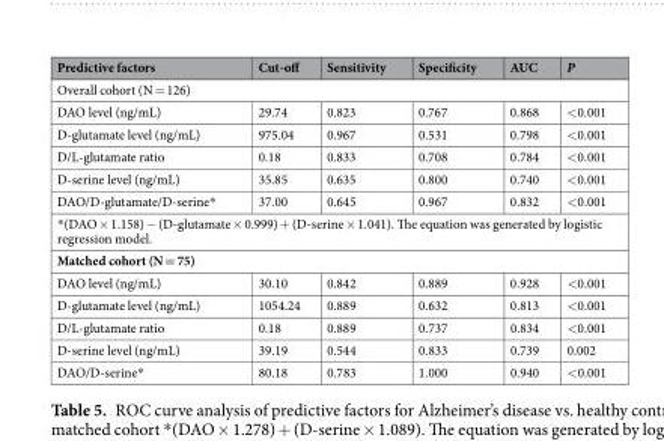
<table><thead><tr><td>Predictive factors</td><td>Cut-off</td><td>Sensitivity</td><td>Specificity</td><td>AUC</td><td>P</td></tr></thead><tbody><tr><td colspan="6">Overall cohort (N = 126)</td></tr><tr><td>DAO level (ng/mL)</td><td>29.74</td><td>0.823</td><td>0.767</td><td>0.868</td><td>&lt;0.001</td></tr><tr><td>D-glutamate level (ng/mL)</td><td>975.04</td><td>0.967</td><td>0.531</td><td>0.798</td><td>&lt;0.001</td></tr><tr><td>D/L-glutamate ratio</td><td>0.18</td><td>0.833</td><td>0.708</td><td>0.784</td><td>&lt;0.001</td></tr><tr><td>D-serine level (ng/mL)</td><td>35.85</td><td>0.635</td><td>0.800</td><td>0.740</td><td>&lt;0.001</td></tr><tr><td>DAO/D-glutamate/D-serine*</td><td>37.00</td><td>0.645</td><td>0.967</td><td>0.832</td><td>&lt;0.001</td></tr><tr><td colspan="6">*(DAO × 1.158) − (D-glutamate × 0.999) + (D-serine × 1.041). The equation was generated by logistic regression model.</td></tr><tr><td colspan="6">Matched cohort (N = 75)</td></tr><tr><td>DAO level (ng/mL)</td><td>30.10</td><td>0.842</td><td>0.889</td><td>0.928</td><td>&lt;0.001</td></tr><tr><td>D-glutamate level (ng/mL)</td><td>1054.24</td><td>0.889</td><td>0.632</td><td>0.813</td><td>&lt;0.001</td></tr><tr><td>D/L-glutamate ratio</td><td>0.18</td><td>0.889</td><td>0.737</td><td>0.834</td><td>&lt;0.001</td></tr><tr><td>D-serine level (ng/mL)</td><td>39.19</td><td>0.544</td><td>0.833</td><td>0.739</td><td>0.002</td></tr><tr><td>DAO/D-serine*</td><td>80.18</td><td>0.783</td><td>1.000</td><td>0.940</td><td>&lt;0.001</td></tr></tbody></table>